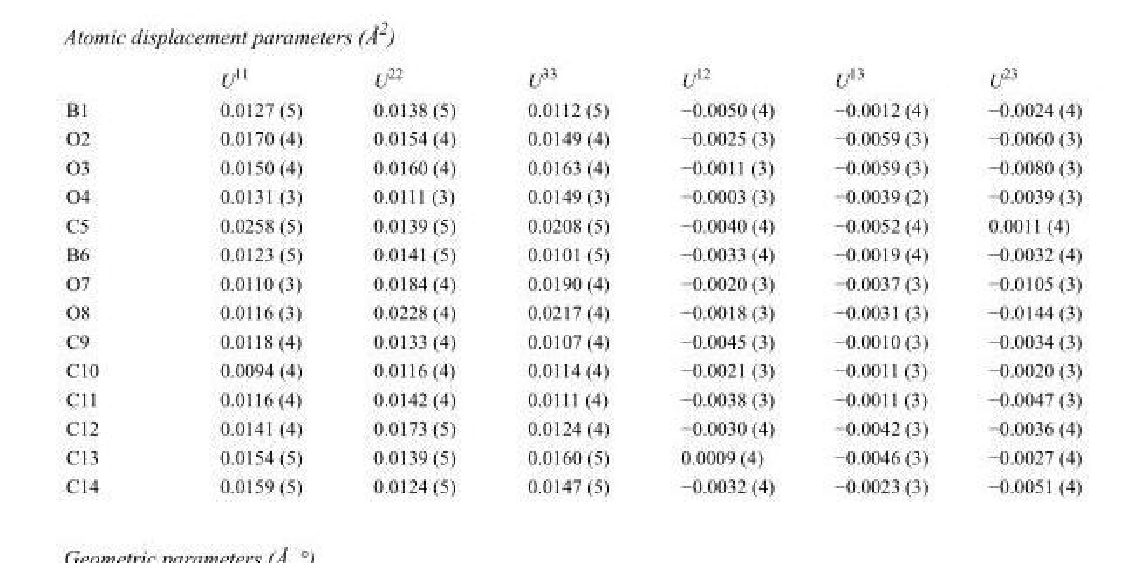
<table><thead><tr><td></td><td>U<sup>11</sup></td><td>U<sup>22</sup></td><td>U<sup>33</sup></td><td>U<sup>12</sup></td><td>U<sup>13</sup></td><td>U<sup>23</sup></td></tr></thead><tbody><tr><td>B1</td><td>0.0127 (5)</td><td>0.0138 (5)</td><td>0.0112 (5)</td><td>−0.0050 (4)</td><td>−0.0012 (4)</td><td>−0.0024 (4)</td></tr><tr><td>O2</td><td>0.0170 (4)</td><td>0.0154 (4)</td><td>0.0149 (4)</td><td>−0.0025 (3)</td><td>−0.0059 (3)</td><td>−0.0060 (3)</td></tr><tr><td>O3</td><td>0.0150 (4)</td><td>0.0160 (4)</td><td>0.0163 (4)</td><td>−0.0011 (3)</td><td>−0.0059 (3)</td><td>−0.0080 (3)</td></tr><tr><td>O4</td><td>0.0131 (3)</td><td>0.0111 (3)</td><td>0.0149 (3)</td><td>−0.0003 (3)</td><td>−0.0039 (2)</td><td>−0.0039 (3)</td></tr><tr><td>C5</td><td>0.0258 (5)</td><td>0.0139 (5)</td><td>0.0208 (5)</td><td>−0.0040 (4)</td><td>−0.0052 (4)</td><td>0.0011 (4)</td></tr><tr><td>B6</td><td>0.0123 (5)</td><td>0.0141 (5)</td><td>0.0101 (5)</td><td>−0.0033 (4)</td><td>−0.0019 (4)</td><td>−0.0032 (4)</td></tr><tr><td>O7</td><td>0.0110 (3)</td><td>0.0184 (4)</td><td>0.0190 (4)</td><td>−0.0020 (3)</td><td>−0.0037 (3)</td><td>−0.0105 (3)</td></tr><tr><td>O8</td><td>0.0116 (3)</td><td>0.0228 (4)</td><td>0.0217 (4)</td><td>−0.0018 (3)</td><td>−0.0031 (3)</td><td>−0.0144 (3)</td></tr><tr><td>C9</td><td>0.0118 (4)</td><td>0.0133 (4)</td><td>0.0107 (4)</td><td>−0.0045 (3)</td><td>−0.0010 (3)</td><td>−0.0034 (3)</td></tr><tr><td>C10</td><td>0.0094 (4)</td><td>0.0116 (4)</td><td>0.0114 (4)</td><td>−0.0021 (3)</td><td>−0.0011 (3)</td><td>−0.0020 (3)</td></tr><tr><td>C11</td><td>0.0116 (4)</td><td>0.0142 (4)</td><td>0.0111 (4)</td><td>−0.0038 (3)</td><td>−0.0011 (3)</td><td>−0.0047 (3)</td></tr><tr><td>C12</td><td>0.0141 (4)</td><td>0.0173 (5)</td><td>0.0124 (4)</td><td>−0.0030 (4)</td><td>−0.0042 (3)</td><td>−0.0036 (4)</td></tr><tr><td>C13</td><td>0.0154 (5)</td><td>0.0139 (5)</td><td>0.0160 (5)</td><td>0.0009 (4)</td><td>−0.0046 (3)</td><td>−0.0027 (4)</td></tr><tr><td>C14</td><td>0.0159 (5)</td><td>0.0124 (5)</td><td>0.0147 (5)</td><td>−0.0032 (4)</td><td>−0.0023 (3)</td><td>−0.0051 (4)</td></tr></tbody></table>